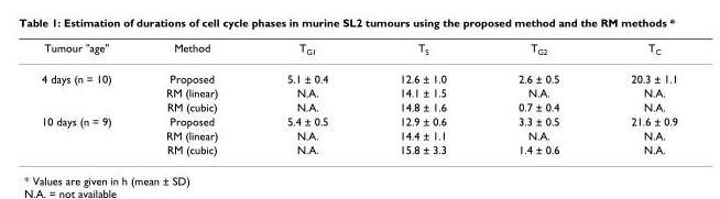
<table><thead><tr><td>Tumour &quot;age&quot;</td><td>Method</td><td>TG1</td><td>TS</td><td>TG2</td><td>TC</td></tr></thead><tbody><tr><td rowspan="3">4 days (n = 10)</td><td>Proposed</td><td>5.1 ± 0.4</td><td>12.6 ± 1.0</td><td>2.6 ± 0.5</td><td>20.3 ± 1.1</td></tr><tr><td>RM (linear)</td><td>N.A.</td><td>14.1 ± 1.5</td><td>N.A.</td><td>N.A.</td></tr><tr><td>RM (cubic)</td><td>N.A.</td><td>14.8 ± 1.6</td><td>0.7 ± 0.4</td><td>N.A.</td></tr><tr><td rowspan="3">10 days (n = 9)</td><td>Proposed</td><td>5.4 ± 0.5</td><td>12.9 ± 0.6</td><td>3.3 ± 0.5</td><td>21.6 ± 0.9</td></tr><tr><td>RM (linear)</td><td>N.A.</td><td>14.4 ± 1.1</td><td>N.A.</td><td>N.A.</td></tr><tr><td>RM (cubic)</td><td>N.A.</td><td>15.8 ± 3.3</td><td>1.4 ± 0.6</td><td>N.A.</td></tr></tbody></table>